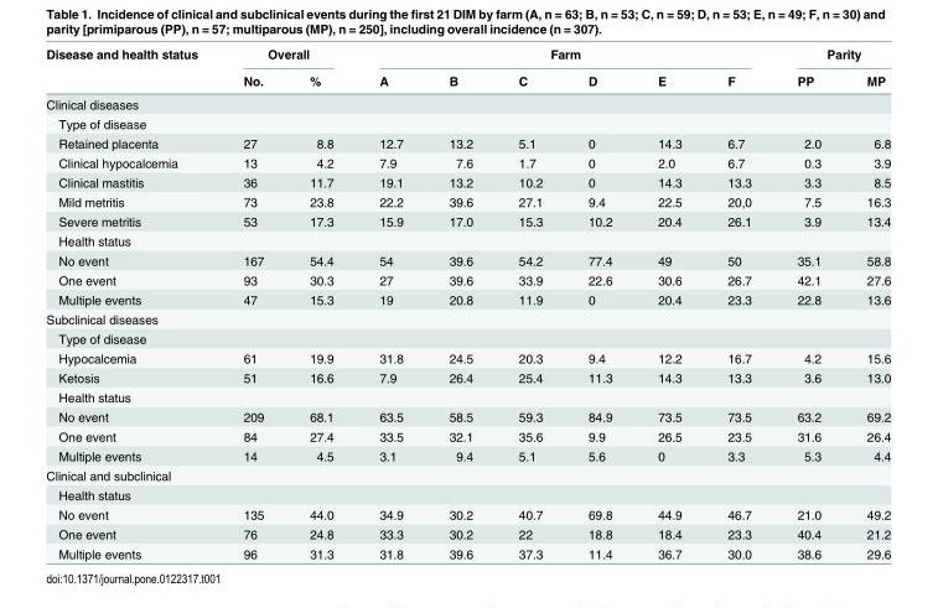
<table><thead><tr><td rowspan="2">Disease and health status</td><td colspan="2">Overall</td><td colspan="6">Farm</td><td colspan="2">Parity</td></tr><tr><td>No.</td><td>%</td><td>A</td><td>B</td><td>C</td><td>D</td><td>E</td><td>F</td><td>PP</td><td>MP</td></tr></thead><tbody><tr><td colspan="11">Clinical diseases</td></tr><tr><td colspan="11">Type of disease</td></tr><tr><td>Retained placenta</td><td>27</td><td>8.8</td><td>12.7</td><td>13.2</td><td>5.1</td><td>0</td><td>14.3</td><td>6.7</td><td>2.0</td><td>6.8</td></tr><tr><td>Clinical hypocalcemia</td><td>13</td><td>4.2</td><td>7.9</td><td>7.6</td><td>1.7</td><td>0</td><td>2.0</td><td>6.7</td><td>0.3</td><td>3.9</td></tr><tr><td>Clinical mastitis</td><td>36</td><td>11.7</td><td>19.1</td><td>13.2</td><td>10.2</td><td>0</td><td>14.3</td><td>13.3</td><td>3.3</td><td>8.5</td></tr><tr><td>Mild metritis</td><td>73</td><td>23.8</td><td>22.2</td><td>39.6</td><td>27.1</td><td>9.4</td><td>22.5</td><td>20,0</td><td>7.5</td><td>16.3</td></tr><tr><td>Severe metritis</td><td>53</td><td>17.3</td><td>15.9</td><td>17.0</td><td>15.3</td><td>10.2</td><td>20.4</td><td>26.1</td><td>3.9</td><td>13.4</td></tr><tr><td colspan="11">Health status</td></tr><tr><td>No event</td><td>167</td><td>54.4</td><td>54</td><td>39.6</td><td>54.2</td><td>77.4</td><td>49</td><td>50</td><td>35.1</td><td>58.8</td></tr><tr><td>One event</td><td>93</td><td>30.3</td><td>27</td><td>39.6</td><td>33.9</td><td>22.6</td><td>30.6</td><td>26.7</td><td>42.1</td><td>27.6</td></tr><tr><td>Multiple events</td><td>47</td><td>15.3</td><td>19</td><td>20.8</td><td>11.9</td><td>0</td><td>20.4</td><td>23.3</td><td>22.8</td><td>13.6</td></tr><tr><td colspan="11">Subclinical diseases</td></tr><tr><td colspan="11">Type of disease</td></tr><tr><td>Hypocalcemia</td><td>61</td><td>19.9</td><td>31.8</td><td>24.5</td><td>20.3</td><td>9.4</td><td>12.2</td><td>16.7</td><td>4.2</td><td>15.6</td></tr><tr><td>Ketosis</td><td>51</td><td>16.6</td><td>7.9</td><td>26.4</td><td>25.4</td><td>11.3</td><td>14.3</td><td>13.3</td><td>3.6</td><td>13.0</td></tr><tr><td colspan="11">Health status</td></tr><tr><td>No event</td><td>209</td><td>68.1</td><td>63.5</td><td>58.5</td><td>59.3</td><td>84.9</td><td>73.5</td><td>73.5</td><td>63.2</td><td>69.2</td></tr><tr><td>One event</td><td>84</td><td>27.4</td><td>33.5</td><td>32.1</td><td>35.6</td><td>9.9</td><td>26.5</td><td>23.5</td><td>31.6</td><td>26.4</td></tr><tr><td>Multiple events</td><td>14</td><td>4.5</td><td>3.1</td><td>9.4</td><td>5.1</td><td>5.6</td><td>0</td><td>3.3</td><td>5.3</td><td>4.4</td></tr><tr><td colspan="11">Clinical and subclinical</td></tr><tr><td colspan="11">Health status</td></tr><tr><td>No event</td><td>135</td><td>44.0</td><td>34.9</td><td>30.2</td><td>40.7</td><td>69.8</td><td>44.9</td><td>46.7</td><td>21.0</td><td>49.2</td></tr><tr><td>One event</td><td>76</td><td>24.8</td><td>33.3</td><td>30.2</td><td>22</td><td>18.8</td><td>18.4</td><td>23.3</td><td>40.4</td><td>21.2</td></tr><tr><td>Multiple events</td><td>96</td><td>31.3</td><td>31.8</td><td>39.6</td><td>37.3</td><td>11.4</td><td>36.7</td><td>30.0</td><td>38.6</td><td>29.6</td></tr></tbody></table>